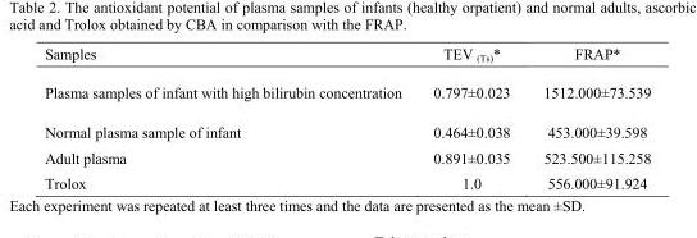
<table><thead><tr><td>Samples</td><td>TEV <sub>(Ts)</sub>*</td><td>FRAP*</td></tr></thead><tbody><tr><td>Plasma samples of infant with high bilirubin concentration</td><td>0.797±0.023</td><td>1512.000±73.539</td></tr><tr><td>Normal plasma sample of infant</td><td>0.464±0.038</td><td>453.000±39.598</td></tr><tr><td>Adult plasma</td><td>0.891±0.035</td><td>523.500±115.258</td></tr><tr><td>Trolox</td><td>1.0</td><td>556.000±91.924</td></tr></tbody></table>